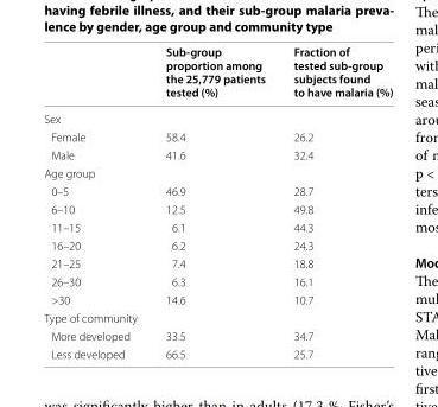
<table><thead><tr><td></td><td>Sub-group proportion among the 25,779 patients tested (%)</td><td>Fraction of tested sub-group subjects found to have malaria (%)</td></tr></thead><tbody><tr><td colspan="3">Sex</td></tr><tr><td>Female</td><td>58.4</td><td>26.2</td></tr><tr><td>Male</td><td>41.6</td><td>32.4</td></tr><tr><td colspan="3">Age group</td></tr><tr><td>0–5</td><td>46.9</td><td>28.7</td></tr><tr><td>6–10</td><td>12.5</td><td>49.8</td></tr><tr><td>11–15</td><td>6.1</td><td>44.3</td></tr><tr><td>16–20</td><td>6.2</td><td>24.3</td></tr><tr><td>21–25</td><td>7.4</td><td>18.8</td></tr><tr><td>26–30</td><td>6.3</td><td>16.1</td></tr><tr><td>&gt;30</td><td>14.6</td><td>10.7</td></tr><tr><td colspan="3">Type of community</td></tr><tr><td>More developed</td><td>33.5</td><td>34.7</td></tr><tr><td>Less developed</td><td>66.5</td><td>25.7</td></tr></tbody></table>